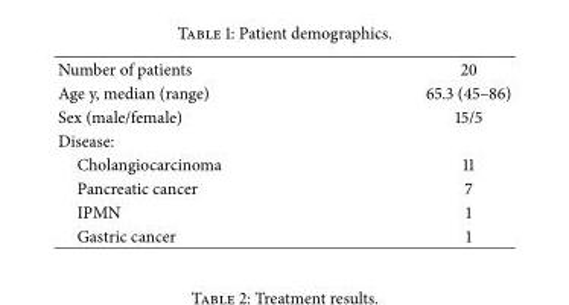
<table><tbody><tr><td>Number of patients</td><td>20</td></tr><tr><td>Age y, median (range)</td><td>65.3 (45–86)</td></tr><tr><td>Sex (male/female)</td><td>15/5</td></tr><tr><td colspan="2">Disease:</td></tr><tr><td>Cholangiocarcinoma</td><td>11</td></tr><tr><td>Pancreatic cancer</td><td>7</td></tr><tr><td>IPMN</td><td>1</td></tr><tr><td>Gastric cancer</td><td>1</td></tr></tbody></table>